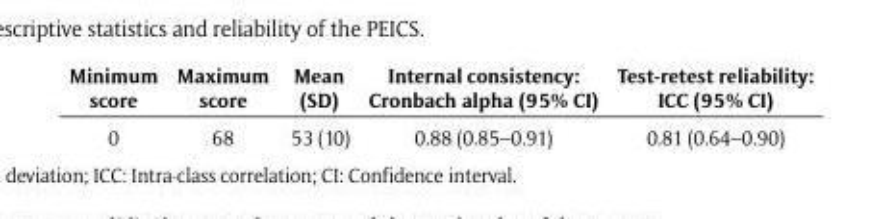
<table><thead><tr><td>Minimum score</td><td>Maximum score</td><td>Mean (SD)</td><td>Internal consistency: Cronbach alpha (95% CI)</td><td>Test-retest reliability: ICC (95% CI)</td></tr></thead><tbody><tr><td>0</td><td>68</td><td>53 (10)</td><td>0.88 (0.85–0.91)</td><td>0.81 (0.64–0.90)</td></tr></tbody></table>